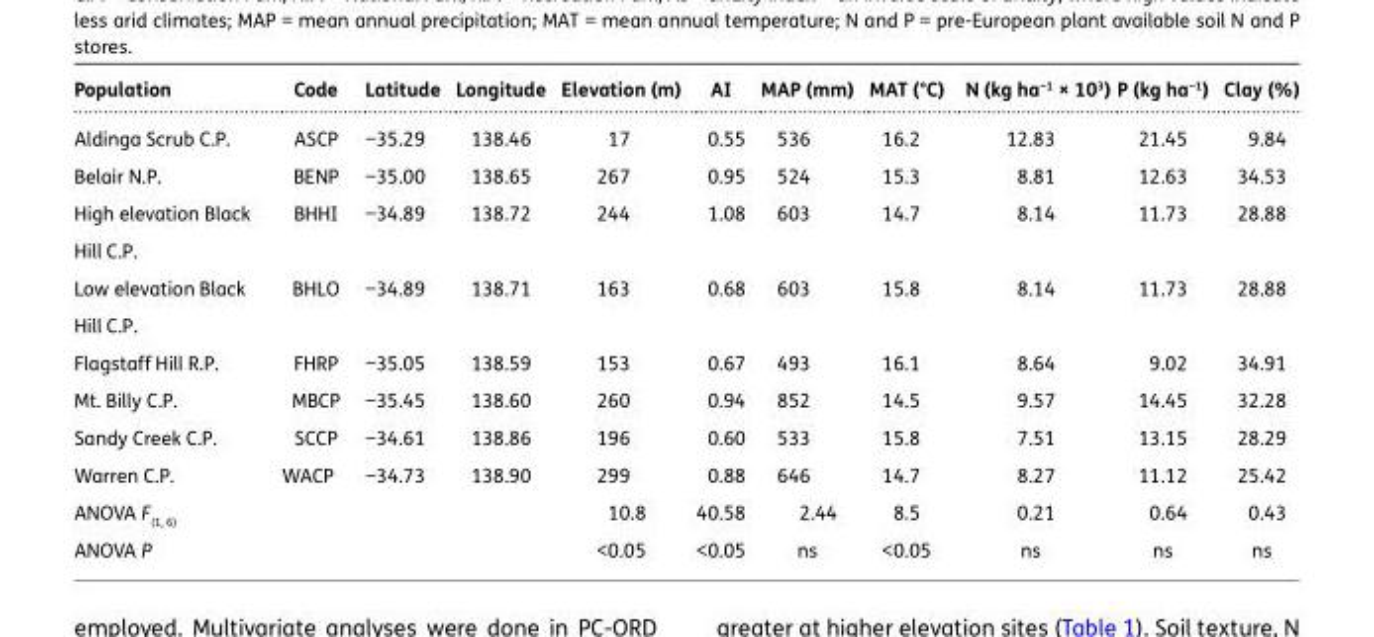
<table><thead><tr><td>Population</td><td>Code</td><td>Latitude</td><td>Longitude</td><td>Elevation (m)</td><td>AI</td><td>MAP (mm)</td><td>MAT (°C)</td><td>N (kg ha<sup>−1</sup> × 10<sup>3</sup>)</td><td>P (kg ha<sup>−1</sup>)</td><td>Clay (%)</td></tr></thead><tbody><tr><td>Aldinga Scrub C.P.</td><td>ASCP</td><td>−35.29</td><td>138.46</td><td>17</td><td>0.55</td><td>536</td><td>16.2</td><td>12.83</td><td>21.45</td><td>9.84</td></tr><tr><td>Belair N.P.</td><td>BENP</td><td>−35.00</td><td>138.65</td><td>267</td><td>0.95</td><td>524</td><td>15.3</td><td>8.81</td><td>12.63</td><td>34.53</td></tr><tr><td>High elevation Black Hill C.P.</td><td>BHHI</td><td>−34.89</td><td>138.72</td><td>244</td><td>1.08</td><td>603</td><td>14.7</td><td>8.14</td><td>11.73</td><td>28.88</td></tr><tr><td>Low elevation Black Hill C.P.</td><td>BHLO</td><td>−34.89</td><td>138.71</td><td>163</td><td>0.68</td><td>603</td><td>15.8</td><td>8.14</td><td>11.73</td><td>28.88</td></tr><tr><td>Flagstaff Hill R.P.</td><td>FHRP</td><td>−35.05</td><td>138.59</td><td>153</td><td>0.67</td><td>493</td><td>16.1</td><td>8.64</td><td>9.02</td><td>34.91</td></tr><tr><td>Mt. Billy C.P.</td><td>MBCP</td><td>−35.45</td><td>138.60</td><td>260</td><td>0.94</td><td>852</td><td>14.5</td><td>9.57</td><td>14.45</td><td>32.28</td></tr><tr><td>Sandy Creek C.P.</td><td>SCCP</td><td>−34.61</td><td>138.86</td><td>196</td><td>0.60</td><td>533</td><td>15.8</td><td>7.51</td><td>13.15</td><td>28.29</td></tr><tr><td>Warren C.P.</td><td>WACP</td><td>−34.73</td><td>138.90</td><td>299</td><td>0.88</td><td>646</td><td>14.7</td><td>8.27</td><td>11.12</td><td>25.42</td></tr><tr><td colspan="4">ANOVA F<sub>(1, 6)</sub></td><td>10.8</td><td>40.58</td><td>2.44</td><td>8.5</td><td>0.21</td><td>0.64</td><td>0.43</td></tr><tr><td colspan="4">ANOVA P</td><td>&lt;0.05</td><td>&lt;0.05</td><td>ns</td><td>&lt;0.05</td><td>ns</td><td>ns</td><td>ns</td></tr></tbody></table>